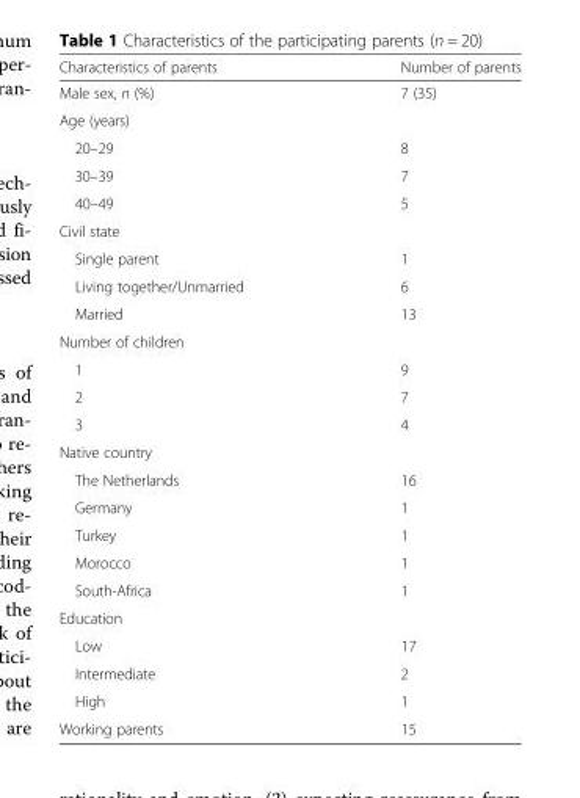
<table><thead><tr><td>Characteristics of parents</td><td>Number of parents</td></tr></thead><tbody><tr><td>Male sex, n (%)</td><td>7 (35)</td></tr><tr><td colspan="2">Age (years)</td></tr><tr><td>20–29</td><td>8</td></tr><tr><td>30–39</td><td>7</td></tr><tr><td>40–49</td><td>5</td></tr><tr><td colspan="2">Civil state</td></tr><tr><td>Single parent</td><td>1</td></tr><tr><td>Living together/Unmarried</td><td>6</td></tr><tr><td>Married</td><td>13</td></tr><tr><td colspan="2">Number of children</td></tr><tr><td>1</td><td>9</td></tr><tr><td>2</td><td>7</td></tr><tr><td>3</td><td>4</td></tr><tr><td colspan="2">Native country</td></tr><tr><td>The Netherlands</td><td>16</td></tr><tr><td>Germany</td><td>1</td></tr><tr><td>Turkey</td><td>1</td></tr><tr><td>Morocco</td><td>1</td></tr><tr><td>South-Africa</td><td>1</td></tr><tr><td colspan="2">Education</td></tr><tr><td>Low</td><td>17</td></tr><tr><td>Intermediate</td><td>2</td></tr><tr><td>High</td><td>1</td></tr><tr><td>Working parents</td><td>15</td></tr></tbody></table>